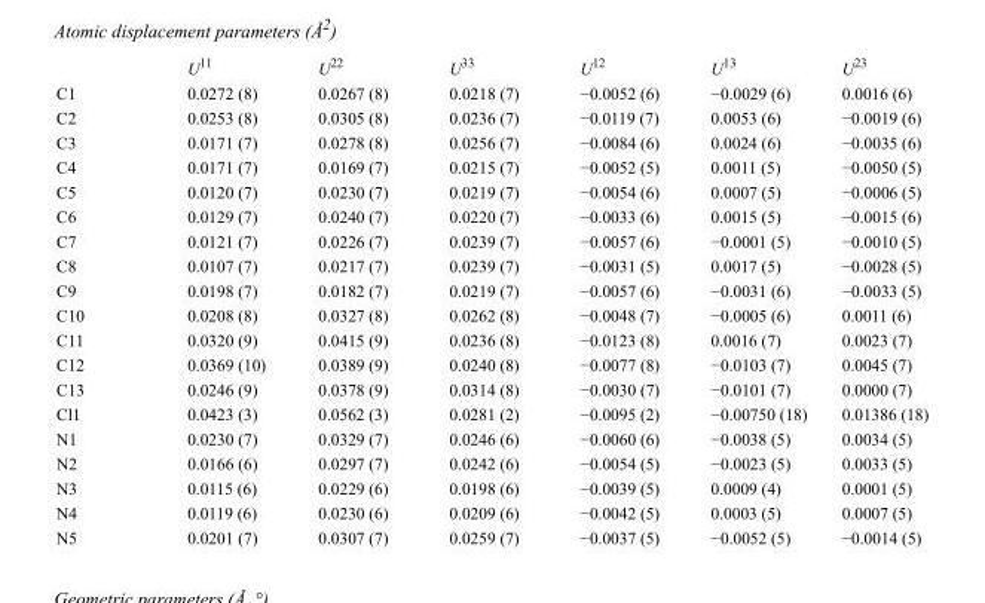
<table><thead><tr><td></td><td>U<sup>11</sup></td><td>U<sup>22</sup></td><td>U<sup>33</sup></td><td>U<sup>12</sup></td><td>U<sup>13</sup></td><td>U<sup>23</sup></td></tr></thead><tbody><tr><td>C1</td><td>0.0272 (8)</td><td>0.0267 (8)</td><td>0.0218 (7)</td><td>−0.0052 (6)</td><td>−0.0029 (6)</td><td>0.0016 (6)</td></tr><tr><td>C2</td><td>0.0253 (8)</td><td>0.0305 (8)</td><td>0.0236 (7)</td><td>−0.0119 (7)</td><td>0.0053 (6)</td><td>−0.0019 (6)</td></tr><tr><td>C3</td><td>0.0171 (7)</td><td>0.0278 (8)</td><td>0.0256 (7)</td><td>−0.0084 (6)</td><td>0.0024 (6)</td><td>−0.0035 (6)</td></tr><tr><td>C4</td><td>0.0171 (7)</td><td>0.0169 (7)</td><td>0.0215 (7)</td><td>−0.0052 (5)</td><td>0.0011 (5)</td><td>−0.0050 (5)</td></tr><tr><td>C5</td><td>0.0120 (7)</td><td>0.0230 (7)</td><td>0.0219 (7)</td><td>−0.0054 (6)</td><td>0.0007 (5)</td><td>−0.0006 (5)</td></tr><tr><td>C6</td><td>0.0129 (7)</td><td>0.0240 (7)</td><td>0.0220 (7)</td><td>−0.0033 (6)</td><td>0.0015 (5)</td><td>−0.0015 (6)</td></tr><tr><td>C7</td><td>0.0121 (7)</td><td>0.0226 (7)</td><td>0.0239 (7)</td><td>−0.0057 (6)</td><td>−0.0001 (5)</td><td>−0.0010 (5)</td></tr><tr><td>C8</td><td>0.0107 (7)</td><td>0.0217 (7)</td><td>0.0239 (7)</td><td>−0.0031 (5)</td><td>0.0017 (5)</td><td>−0.0028 (5)</td></tr><tr><td>C9</td><td>0.0198 (7)</td><td>0.0182 (7)</td><td>0.0219 (7)</td><td>−0.0057 (6)</td><td>−0.0031 (6)</td><td>−0.0033 (5)</td></tr><tr><td>C10</td><td>0.0208 (8)</td><td>0.0327 (8)</td><td>0.0262 (8)</td><td>−0.0048 (7)</td><td>−0.0005 (6)</td><td>0.0011 (6)</td></tr><tr><td>C11</td><td>0.0320 (9)</td><td>0.0415 (9)</td><td>0.0236 (8)</td><td>−0.0123 (8)</td><td>0.0016 (7)</td><td>0.0023 (7)</td></tr><tr><td>C12</td><td>0.0369 (10)</td><td>0.0389 (9)</td><td>0.0240 (8)</td><td>−0.0077 (8)</td><td>−0.0103 (7)</td><td>0.0045 (7)</td></tr><tr><td>C13</td><td>0.0246 (9)</td><td>0.0378 (9)</td><td>0.0314 (8)</td><td>−0.0030 (7)</td><td>−0.0101 (7)</td><td>0.0000 (7)</td></tr><tr><td>Cl1</td><td>0.0423 (3)</td><td>0.0562 (3)</td><td>0.0281 (2)</td><td>−0.0095 (2)</td><td>−0.00750 (18)</td><td>0.01386 (18)</td></tr><tr><td>N1</td><td>0.0230 (7)</td><td>0.0329 (7)</td><td>0.0246 (6)</td><td>−0.0060 (6)</td><td>−0.0038 (5)</td><td>0.0034 (5)</td></tr><tr><td>N2</td><td>0.0166 (6)</td><td>0.0297 (7)</td><td>0.0242 (6)</td><td>−0.0054 (5)</td><td>−0.0023 (5)</td><td>0.0033 (5)</td></tr><tr><td>N3</td><td>0.0115 (6)</td><td>0.0229 (6)</td><td>0.0198 (6)</td><td>−0.0039 (5)</td><td>0.0009 (4)</td><td>0.0001 (5)</td></tr><tr><td>N4</td><td>0.0119 (6)</td><td>0.0230 (6)</td><td>0.0209 (6)</td><td>−0.0042 (5)</td><td>0.0003 (5)</td><td>0.0007 (5)</td></tr><tr><td>N5</td><td>0.0201 (7)</td><td>0.0307 (7)</td><td>0.0259 (7)</td><td>−0.0037 (5)</td><td>−0.0052 (5)</td><td>−0.0014 (5)</td></tr></tbody></table>